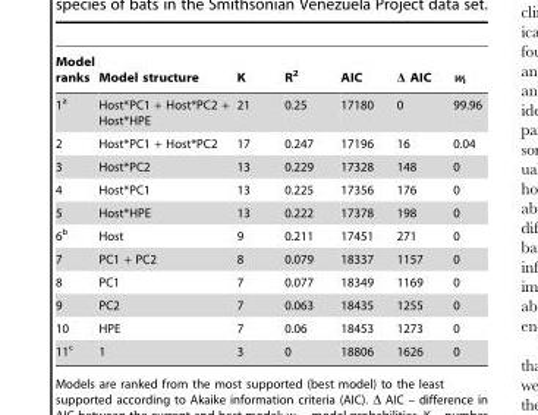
<table><thead><tr><td>Model ranks</td><td>Model structure</td><td>K</td><td>R<sup>2</sup></td><td>AIC</td><td>Δ AIC</td><td>w<sub>i</sub></td></tr></thead><tbody><tr><td>1<sup>a</sup></td><td>Host*PC1 + Host*PC2 + Host*HPE</td><td>21</td><td>0.25</td><td>17180</td><td>0</td><td>99.96</td></tr><tr><td>2</td><td>Host*PC1 + Host*PC2</td><td>17</td><td>0.247</td><td>17196</td><td>16</td><td>0.04</td></tr><tr><td>3</td><td>Host*PC2</td><td>13</td><td>0.229</td><td>17328</td><td>148</td><td>0</td></tr><tr><td>4</td><td>Host*PC1</td><td>13</td><td>0.225</td><td>17356</td><td>176</td><td>0</td></tr><tr><td>5</td><td>Host*HPE</td><td>13</td><td>0.222</td><td>17378</td><td>198</td><td>0</td></tr><tr><td>6<sup>b</sup></td><td>Host</td><td>9</td><td>0.211</td><td>17451</td><td>271</td><td>0</td></tr><tr><td>7</td><td>PC1 + PC2</td><td>8</td><td>0.079</td><td>18337</td><td>1157</td><td>0</td></tr><tr><td>8</td><td>PC1</td><td>7</td><td>0.077</td><td>18349</td><td>1169</td><td>0</td></tr><tr><td>9</td><td>PC2</td><td>7</td><td>0.063</td><td>18435</td><td>1255</td><td>0</td></tr><tr><td>10</td><td>HPE</td><td>7</td><td>0.06</td><td>18453</td><td>1273</td><td>0</td></tr><tr><td>11<sup>c</sup></td><td>1</td><td>3</td><td>0</td><td>18806</td><td>1626</td><td>0</td></tr></tbody></table>